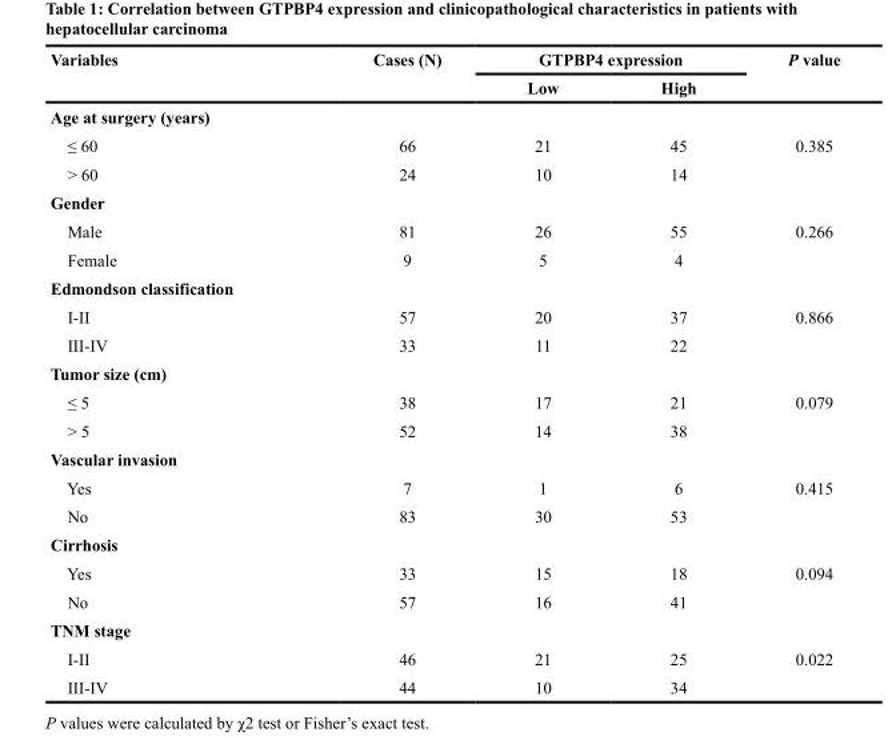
<table><thead><tr><td rowspan="2">Variables</td><td rowspan="2">Cases (N)</td><td colspan="2">GTPBP4 expression</td><td rowspan="2">P value</td></tr><tr><td>Low</td><td>High</td></tr></thead><tbody><tr><td colspan="5">Age at surgery (years)</td></tr><tr><td>≤ 60</td><td>66</td><td>21</td><td>45</td><td>0.385</td></tr><tr><td>&gt; 60</td><td>24</td><td>10</td><td>14</td><td></td></tr><tr><td colspan="5">Gender</td></tr><tr><td>Male</td><td>81</td><td>26</td><td>55</td><td>0.266</td></tr><tr><td>Female</td><td>9</td><td>5</td><td>4</td><td></td></tr><tr><td colspan="5">Edmondson classification</td></tr><tr><td>I-II</td><td>57</td><td>20</td><td>37</td><td>0.866</td></tr><tr><td>III-IV</td><td>33</td><td>11</td><td>22</td><td></td></tr><tr><td colspan="5">Tumor size (cm)</td></tr><tr><td>≤ 5</td><td>38</td><td>17</td><td>21</td><td>0.079</td></tr><tr><td>&gt; 5</td><td>52</td><td>14</td><td>38</td><td></td></tr><tr><td colspan="5">Vascular invasion</td></tr><tr><td>Yes</td><td>7</td><td>1</td><td>6</td><td>0.415</td></tr><tr><td>No</td><td>83</td><td>30</td><td>53</td><td></td></tr><tr><td colspan="5">Cirrhosis</td></tr><tr><td>Yes</td><td>33</td><td>15</td><td>18</td><td>0.094</td></tr><tr><td>No</td><td>57</td><td>16</td><td>41</td><td></td></tr><tr><td colspan="5">TNM stage</td></tr><tr><td>I-II</td><td>46</td><td>21</td><td>25</td><td>0.022</td></tr><tr><td>III-IV</td><td>44</td><td>10</td><td>34</td><td></td></tr></tbody></table>